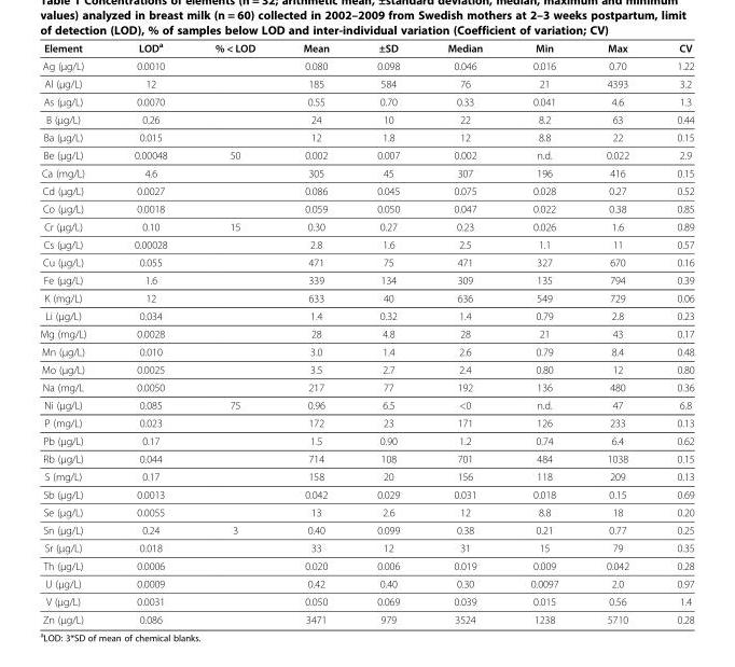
<table><thead><tr><td>Element</td><td>LOD<sup>a</sup></td><td>% &lt; LOD</td><td>Mean</td><td>±SD</td><td>Median</td><td>Min</td><td>Max</td><td>CV</td></tr></thead><tbody><tr><td>Ag (μg/L)</td><td>0.0010</td><td></td><td>0.080</td><td>0.098</td><td>0.046</td><td>0.016</td><td>0.70</td><td>1.22</td></tr><tr><td>Al (μg/L)</td><td>12</td><td></td><td>185</td><td>584</td><td>76</td><td>21</td><td>4393</td><td>3.2</td></tr><tr><td>As (μg/L)</td><td>0.0070</td><td></td><td>0.55</td><td>0.70</td><td>0.33</td><td>0.041</td><td>4.6</td><td>1.3</td></tr><tr><td>B (μg/L)</td><td>0.26</td><td></td><td>24</td><td>10</td><td>22</td><td>8.2</td><td>63</td><td>0.44</td></tr><tr><td>Ba (μg/L)</td><td>0.015</td><td></td><td>12</td><td>1.8</td><td>12</td><td>8.8</td><td>22</td><td>0.15</td></tr><tr><td>Be (μg/L)</td><td>0.00048</td><td>50</td><td>0.002</td><td>0.007</td><td>0.002</td><td>n.d.</td><td>0.022</td><td>2.9</td></tr><tr><td>Ca (mg/L)</td><td>4.6</td><td></td><td>305</td><td>45</td><td>307</td><td>196</td><td>416</td><td>0.15</td></tr><tr><td>Cd (μg/L)</td><td>0.0027</td><td></td><td>0.086</td><td>0.045</td><td>0.075</td><td>0.028</td><td>0.27</td><td>0.52</td></tr><tr><td>Co (μg/L)</td><td>0.0018</td><td></td><td>0.059</td><td>0.050</td><td>0.047</td><td>0.022</td><td>0.38</td><td>0.85</td></tr><tr><td>Cr (μg/L)</td><td>0.10</td><td>15</td><td>0.30</td><td>0.27</td><td>0.23</td><td>0.026</td><td>1.6</td><td>0.89</td></tr><tr><td>Cs (μg/L)</td><td>0.00028</td><td></td><td>2.8</td><td>1.6</td><td>2.5</td><td>1.1</td><td>11</td><td>0.57</td></tr><tr><td>Cu (μg/L)</td><td>0.055</td><td></td><td>471</td><td>75</td><td>471</td><td>327</td><td>670</td><td>0.16</td></tr><tr><td>Fe (μg/L)</td><td>1.6</td><td></td><td>339</td><td>134</td><td>309</td><td>135</td><td>794</td><td>0.39</td></tr><tr><td>K (mg/L)</td><td>12</td><td></td><td>633</td><td>40</td><td>636</td><td>549</td><td>729</td><td>0.06</td></tr><tr><td>Li (μg/L)</td><td>0.034</td><td></td><td>1.4</td><td>0.32</td><td>1.4</td><td>0.79</td><td>2.8</td><td>0.23</td></tr><tr><td>Mg (mg/L)</td><td>0.0028</td><td></td><td>28</td><td>4.8</td><td>28</td><td>21</td><td>43</td><td>0.17</td></tr><tr><td>Mn (μg/L)</td><td>0.010</td><td></td><td>3.0</td><td>1.4</td><td>2.6</td><td>0.79</td><td>8.4</td><td>0.48</td></tr><tr><td>Mo (μg/L)</td><td>0.0025</td><td></td><td>3.5</td><td>2.7</td><td>2.4</td><td>0.80</td><td>12</td><td>0.80</td></tr><tr><td>Na (mg/L</td><td>0.0050</td><td></td><td>217</td><td>77</td><td>192</td><td>136</td><td>480</td><td>0.36</td></tr><tr><td>Ni (μg/L)</td><td>0.085</td><td>75</td><td>0.96</td><td>6.5</td><td>&lt;0</td><td>n.d.</td><td>47</td><td>6.8</td></tr><tr><td>P (mg/L)</td><td>0.023</td><td></td><td>172</td><td>23</td><td>171</td><td>126</td><td>233</td><td>0.13</td></tr><tr><td>Pb (μg/L)</td><td>0.17</td><td></td><td>1.5</td><td>0.90</td><td>1.2</td><td>0.74</td><td>6.4</td><td>0.62</td></tr><tr><td>Rb (μg/L)</td><td>0.044</td><td></td><td>714</td><td>108</td><td>701</td><td>484</td><td>1038</td><td>0.15</td></tr><tr><td>S (mg/L)</td><td>0.17</td><td></td><td>158</td><td>20</td><td>156</td><td>118</td><td>209</td><td>0.13</td></tr><tr><td>Sb (μg/L)</td><td>0.0013</td><td></td><td>0.042</td><td>0.029</td><td>0.031</td><td>0.018</td><td>0.15</td><td>0.69</td></tr><tr><td>Se (μg/L)</td><td>0.0055</td><td></td><td>13</td><td>2.6</td><td>12</td><td>8.8</td><td>18</td><td>0.20</td></tr><tr><td>Sn (μg/L)</td><td>0.24</td><td>3</td><td>0.40</td><td>0.099</td><td>0.38</td><td>0.21</td><td>0.77</td><td>0.25</td></tr><tr><td>Sr (μg/L)</td><td>0.018</td><td></td><td>33</td><td>12</td><td>31</td><td>15</td><td>79</td><td>0.35</td></tr><tr><td>Th (μg/L)</td><td>0.0006</td><td></td><td>0.020</td><td>0.006</td><td>0.019</td><td>0.009</td><td>0.042</td><td>0.28</td></tr><tr><td>U (μg/L)</td><td>0.0009</td><td></td><td>0.42</td><td>0.40</td><td>0.30</td><td>0.0097</td><td>2.0</td><td>0.97</td></tr><tr><td>V (μg/L)</td><td>0.0031</td><td></td><td>0.050</td><td>0.069</td><td>0.039</td><td>0.015</td><td>0.56</td><td>1.4</td></tr><tr><td>Zn (μg/L)</td><td>0.086</td><td></td><td>3471</td><td>979</td><td>3524</td><td>1238</td><td>5710</td><td>0.28</td></tr></tbody></table>